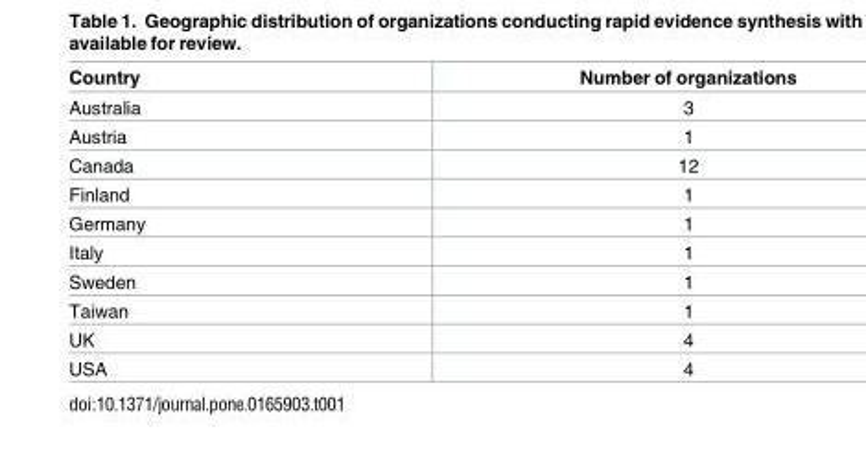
<table><thead><tr><td>Country</td><td>Number of organizations</td></tr></thead><tbody><tr><td>Australia</td><td>3</td></tr><tr><td>Austria</td><td>1</td></tr><tr><td>Canada</td><td>12</td></tr><tr><td>Finland</td><td>1</td></tr><tr><td>Germany</td><td>1</td></tr><tr><td>Italy</td><td>1</td></tr><tr><td>Sweden</td><td>1</td></tr><tr><td>Taiwan</td><td>1</td></tr><tr><td>UK</td><td>4</td></tr><tr><td>USA</td><td>4</td></tr></tbody></table>